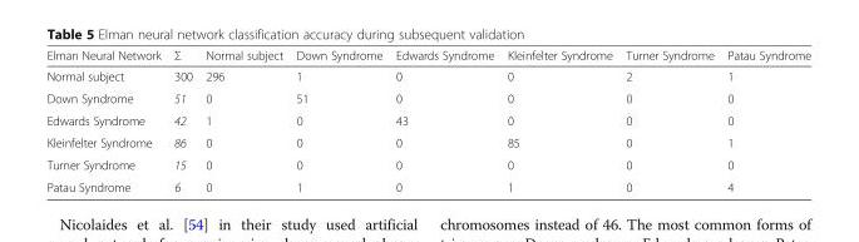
<table><thead><tr><td>Elman Neural Network</td><td>Σ</td><td>Normal subject</td><td>Down Syndrome</td><td>Edwards Syndrome</td><td>Kleinfelter Syndrome</td><td>Turner Syndrome</td><td>Patau Syndrome</td></tr></thead><tbody><tr><td>Normal subject</td><td>300</td><td>296</td><td>1</td><td>0</td><td>0</td><td>2</td><td>1</td></tr><tr><td>Down Syndrome</td><td>51</td><td>0</td><td>51</td><td>0</td><td>0</td><td>0</td><td>0</td></tr><tr><td>Edwards Syndrome</td><td>42</td><td>1</td><td>0</td><td>43</td><td>0</td><td>0</td><td>0</td></tr><tr><td>Kleinfelter Syndrome</td><td>86</td><td>0</td><td>0</td><td>0</td><td>85</td><td>0</td><td>1</td></tr><tr><td>Turner Syndrome</td><td>15</td><td>0</td><td>0</td><td>0</td><td>0</td><td>0</td><td>0</td></tr><tr><td>Patau Syndrome</td><td>6</td><td>0</td><td>1</td><td>0</td><td>1</td><td>0</td><td>4</td></tr></tbody></table>